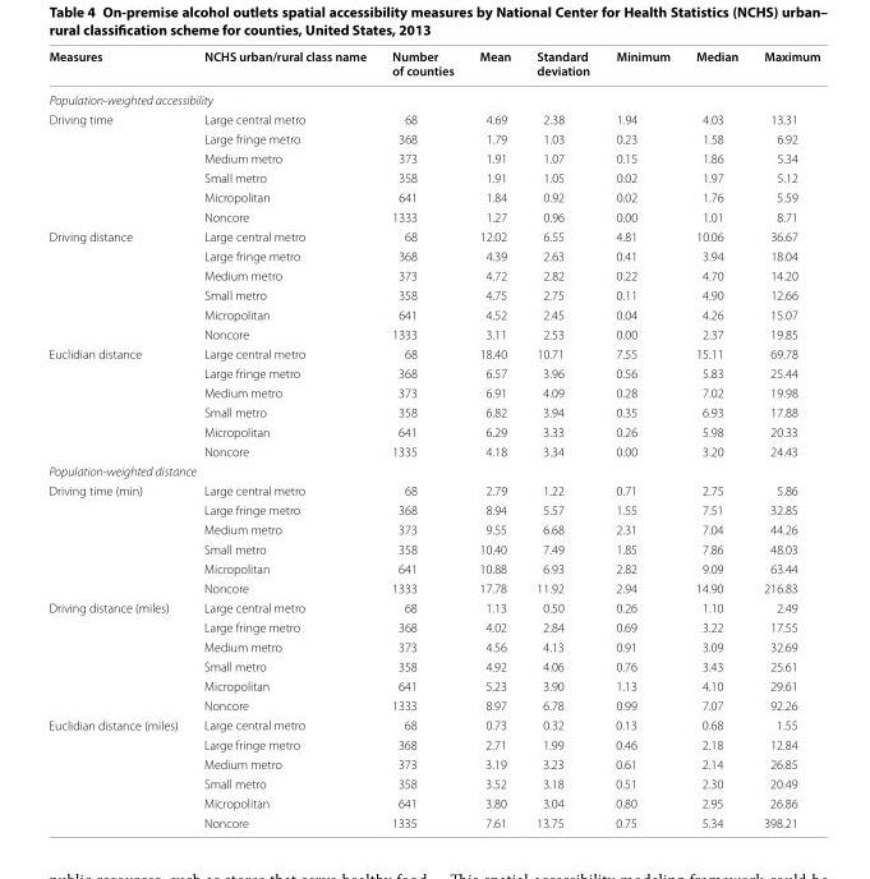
<table><thead><tr><td>Measures</td><td>NCHS urban/rural class name</td><td>Number of counties</td><td>Mean</td><td>Standard deviation</td><td>Minimum</td><td>Median</td><td>Maximum</td></tr></thead><tbody><tr><td colspan="8">Population-weighted accessibility</td></tr><tr><td rowspan="6">Driving time</td><td>Large central metro</td><td>68</td><td>4.69</td><td>2.38</td><td>1.94</td><td>4.03</td><td>13.31</td></tr><tr><td>Large fringe metro</td><td>368</td><td>1.79</td><td>1.03</td><td>0.23</td><td>1.58</td><td>6.92</td></tr><tr><td>Medium metro</td><td>373</td><td>1.91</td><td>1.07</td><td>0.15</td><td>1.86</td><td>5.34</td></tr><tr><td>Small metro</td><td>358</td><td>1.91</td><td>1.05</td><td>0.02</td><td>1.97</td><td>5.12</td></tr><tr><td>Micropolitan</td><td>641</td><td>1.84</td><td>0.92</td><td>0.02</td><td>1.76</td><td>5.59</td></tr><tr><td>Noncore</td><td>1333</td><td>1.27</td><td>0.96</td><td>0.00</td><td>1.01</td><td>8.71</td></tr><tr><td rowspan="6">Driving distance</td><td>Large central metro</td><td>68</td><td>12.02</td><td>6.55</td><td>4.81</td><td>10.06</td><td>36.67</td></tr><tr><td>Large fringe metro</td><td>368</td><td>4.39</td><td>2.63</td><td>0.41</td><td>3.94</td><td>18.04</td></tr><tr><td>Medium metro</td><td>373</td><td>4.72</td><td>2.82</td><td>0.22</td><td>4.70</td><td>14.20</td></tr><tr><td>Small metro</td><td>358</td><td>4.75</td><td>2.75</td><td>0.11</td><td>4.90</td><td>12.66</td></tr><tr><td>Micropolitan</td><td>641</td><td>4.52</td><td>2.45</td><td>0.04</td><td>4.26</td><td>15.07</td></tr><tr><td>Noncore</td><td>1333</td><td>3.11</td><td>2.53</td><td>0.00</td><td>2.37</td><td>19.85</td></tr><tr><td rowspan="6">Euclidian distance</td><td>Large central metro</td><td>68</td><td>18.40</td><td>10.71</td><td>7.55</td><td>15.11</td><td>69.78</td></tr><tr><td>Large fringe metro</td><td>368</td><td>6.57</td><td>3.96</td><td>0.56</td><td>5.83</td><td>25.44</td></tr><tr><td>Medium metro</td><td>373</td><td>6.91</td><td>4.09</td><td>0.28</td><td>7.02</td><td>19.98</td></tr><tr><td>Small metro</td><td>358</td><td>6.82</td><td>3.94</td><td>0.35</td><td>6.93</td><td>17.88</td></tr><tr><td>Micropolitan</td><td>641</td><td>6.29</td><td>3.33</td><td>0.26</td><td>5.98</td><td>20.33</td></tr><tr><td>Noncore</td><td>1335</td><td>4.18</td><td>3.34</td><td>0.00</td><td>3.20</td><td>24.43</td></tr><tr><td colspan="8">Population-weighted distance</td></tr><tr><td rowspan="6">Driving time (min)</td><td>Large central metro</td><td>68</td><td>2.79</td><td>1.22</td><td>0.71</td><td>2.75</td><td>5.86</td></tr><tr><td>Large fringe metro</td><td>368</td><td>8.94</td><td>5.57</td><td>1.55</td><td>7.51</td><td>32.85</td></tr><tr><td>Medium metro</td><td>373</td><td>9.55</td><td>6.68</td><td>2.31</td><td>7.04</td><td>44.26</td></tr><tr><td>Small metro</td><td>358</td><td>10.40</td><td>7.49</td><td>1.85</td><td>7.86</td><td>48.03</td></tr><tr><td>Micropolitan</td><td>641</td><td>10.88</td><td>6.93</td><td>2.82</td><td>9.09</td><td>63.44</td></tr><tr><td>Noncore</td><td>1333</td><td>17.78</td><td>11.92</td><td>2.94</td><td>14.90</td><td>216.83</td></tr><tr><td rowspan="6">Driving distance (miles)</td><td>Large central metro</td><td>68</td><td>1.13</td><td>0.50</td><td>0.26</td><td>1.10</td><td>2.49</td></tr><tr><td>Large fringe metro</td><td>368</td><td>4.02</td><td>2.84</td><td>0.69</td><td>3.22</td><td>17.55</td></tr><tr><td>Medium metro</td><td>373</td><td>4.56</td><td>4.13</td><td>0.91</td><td>3.09</td><td>32.69</td></tr><tr><td>Small metro</td><td>358</td><td>4.92</td><td>4.06</td><td>0.76</td><td>3.43</td><td>25.61</td></tr><tr><td>Micropolitan</td><td>641</td><td>5.23</td><td>3.90</td><td>1.13</td><td>4.10</td><td>29.61</td></tr><tr><td>Noncore</td><td>1333</td><td>8.97</td><td>6.78</td><td>0.99</td><td>7.07</td><td>92.26</td></tr><tr><td rowspan="6">Euclidian distance (miles)</td><td>Large central metro</td><td>68</td><td>0.73</td><td>0.32</td><td>0.13</td><td>0.68</td><td>1.55</td></tr><tr><td>Large fringe metro</td><td>368</td><td>2.71</td><td>1.99</td><td>0.46</td><td>2.18</td><td>12.84</td></tr><tr><td>Medium metro</td><td>373</td><td>3.19</td><td>3.23</td><td>0.61</td><td>2.14</td><td>26.85</td></tr><tr><td>Small metro</td><td>358</td><td>3.52</td><td>3.18</td><td>0.51</td><td>2.30</td><td>20.49</td></tr><tr><td>Micropolitan</td><td>641</td><td>3.80</td><td>3.04</td><td>0.80</td><td>2.95</td><td>26.86</td></tr><tr><td>Noncore</td><td>1335</td><td>7.61</td><td>13.75</td><td>0.75</td><td>5.34</td><td>398.21</td></tr></tbody></table>